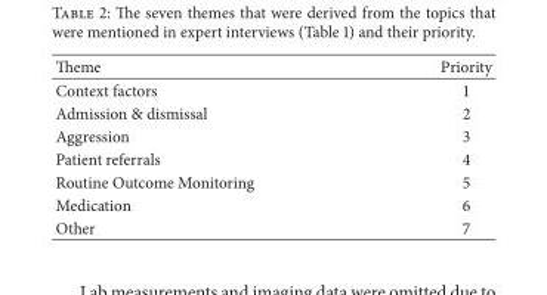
<table><thead><tr><td>Theme</td><td>Priority</td></tr></thead><tbody><tr><td>Context factors</td><td>1</td></tr><tr><td>Admission &amp; dismissal</td><td>2</td></tr><tr><td>Aggression</td><td>3</td></tr><tr><td>Patient referrals</td><td>4</td></tr><tr><td>Routine Outcome Monitoring</td><td>5</td></tr><tr><td>Medication</td><td>6</td></tr><tr><td>Other</td><td>7</td></tr></tbody></table>